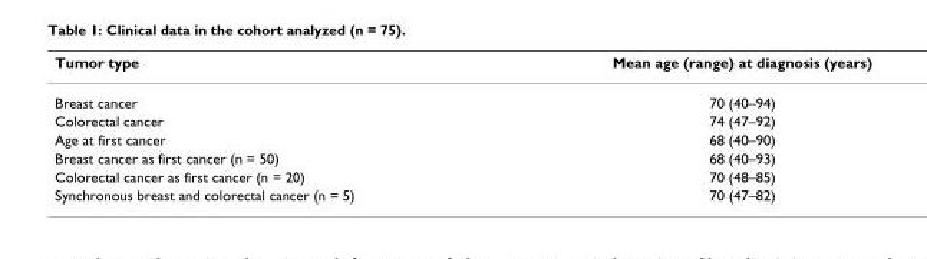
<table><thead><tr><td>Tumor type</td><td>Mean age (range) at diagnosis (years)</td></tr></thead><tbody><tr><td>Breast cancer</td><td>70 (40–94)</td></tr><tr><td>Colorectal cancer</td><td>74 (47–92)</td></tr><tr><td>Age at first cancer</td><td>68 (40–90)</td></tr><tr><td>Breast cancer as first cancer (n = 50)</td><td>68 (40–93)</td></tr><tr><td>Colorectal cancer as first cancer (n = 20)</td><td>70 (48–85)</td></tr><tr><td>Synchronous breast and colorectal cancer (n = 5)</td><td>70 (47–82)</td></tr></tbody></table>